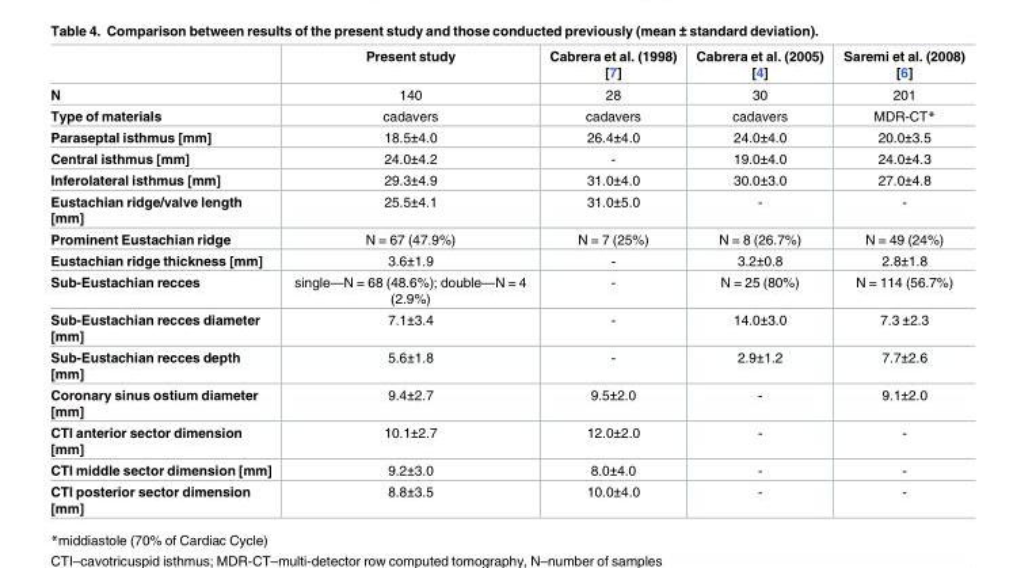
<table><thead><tr><td></td><td>Present study</td><td>Cabrera et al. (1998) [7]</td><td>Cabrera et al. (2005) [4]</td><td>Saremi et al. (2008) [6]</td></tr></thead><tbody><tr><td>N</td><td>140</td><td>28</td><td>30</td><td>201</td></tr><tr><td>Type of materials</td><td>cadavers</td><td>cadavers</td><td>cadavers</td><td>MDR-CT*</td></tr><tr><td>Paraseptal isthmus [mm]</td><td>18.5±4.0</td><td>26.4±4.0</td><td>24.0±4.0</td><td>20.0±3.5</td></tr><tr><td>Central isthmus [mm]</td><td>24.0±4.2</td><td>-</td><td>19.0±4.0</td><td>24.0±4.3</td></tr><tr><td>Inferolateral isthmus [mm]</td><td>29.3±4.9</td><td>31.0±4.0</td><td>30.0±3.0</td><td>27.0±4.8</td></tr><tr><td>Eustachian ridge/valve length [mm]</td><td>25.5±4.1</td><td>31.0±5.0</td><td>-</td><td>-</td></tr><tr><td>Prominent Eustachian ridge</td><td>N = 67 (47.9%)</td><td>N = 7 (25%)</td><td>N = 8 (26.7%)</td><td>N = 49 (24%)</td></tr><tr><td>Eustachian ridge thickness [mm]</td><td>3.6±1.9</td><td>-</td><td>3.2±0.8</td><td>2.8±1.8</td></tr><tr><td>Sub-Eustachian recces</td><td>single—N = 68 (48.6%); double—N = 4 (2.9%)</td><td>-</td><td>N = 25 (80%)</td><td>N = 114 (56.7%)</td></tr><tr><td>Sub-Eustachian recces diameter [mm]</td><td>7.1±3.4</td><td>-</td><td>14.0±3.0</td><td>7.3 ±2.3</td></tr><tr><td>Sub-Eustachian recces depth [mm]</td><td>5.6±1.8</td><td>-</td><td>2.9±1.2</td><td>7.7±2.6</td></tr><tr><td>Coronary sinus ostium diameter [mm]</td><td>9.4±2.7</td><td>9.5±2.0</td><td>-</td><td>9.1±2.0</td></tr><tr><td>CTI anterior sector dimension [mm]</td><td>10.1±2.7</td><td>12.0±2.0</td><td>-</td><td>-</td></tr><tr><td>CTI middle sector dimension [mm]</td><td>9.2±3.0</td><td>8.0±4.0</td><td>-</td><td>-</td></tr><tr><td>CTI posterior sector dimension [mm]</td><td>8.8±3.5</td><td>10.0±4.0</td><td>-</td><td>-</td></tr></tbody></table>